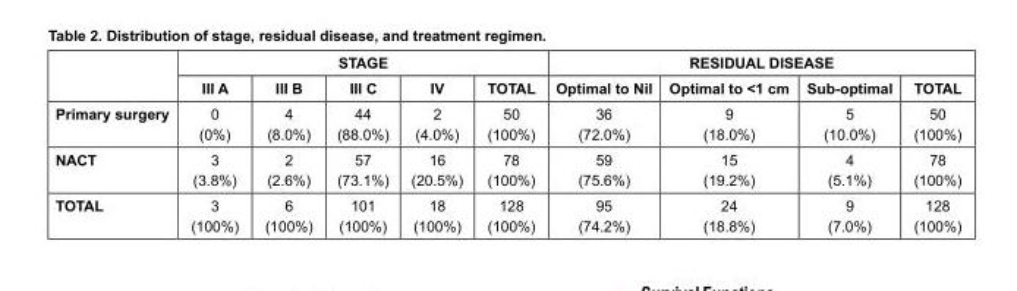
<table><thead><tr><td rowspan="2"></td><td colspan="5">STAGE</td><td colspan="4">RESIDUAL DISEASE</td></tr><tr><td>III A</td><td>III B</td><td>III C</td><td>IV</td><td>TOTAL</td><td>Optimal to Nil</td><td>Optimal to &lt;1 cm</td><td>Sub-optimal</td><td>TOTAL</td></tr></thead><tbody><tr><td>Primary surgery</td><td>0 (0%)</td><td>4 (8.0%)</td><td>44 (88.0%)</td><td>2 (4.0%)</td><td>50 (100%)</td><td>36 (72.0%)</td><td>9 (18.0%)</td><td>5 (10.0%)</td><td>50 (100%)</td></tr><tr><td>NACT</td><td>3 (3.8%)</td><td>2 (2.6%)</td><td>57 (73.1%)</td><td>16 (20.5%)</td><td>78 (100%)</td><td>59 (75.6%)</td><td>15 (19.2%)</td><td>4 (5.1%)</td><td>78 (100%)</td></tr><tr><td>TOTAL</td><td>3 (100%)</td><td>6 (100%)</td><td>101 (100%)</td><td>18 (100%)</td><td>128 (100%)</td><td>95 (74.2%)</td><td>24 (18.8%)</td><td>9 (7.0%)</td><td>128 (100%)</td></tr></tbody></table>